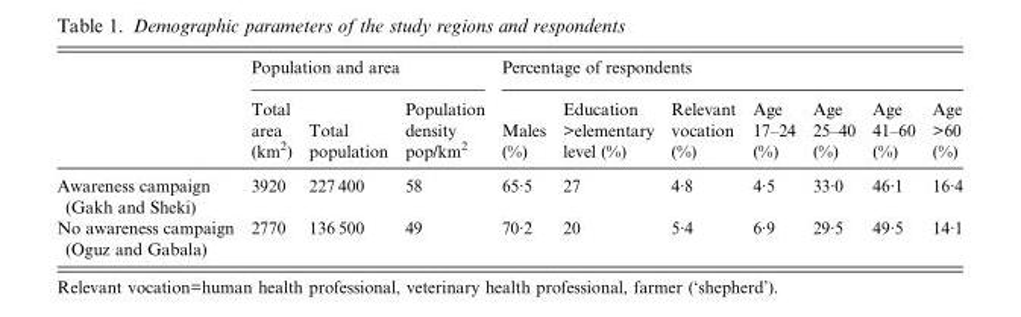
<table><thead><tr><td rowspan="2"></td><td colspan="3">Population and area</td><td colspan="7">Percentage of respondents</td></tr><tr><td>Total area (km<sup>2</sup>)</td><td>Total population</td><td>Population density pop/km<sup>2</sup></td><td>Males (%)</td><td>Education &gt;elementary level (%)</td><td>Relevant vocation (%)</td><td>Age 17–24 (%)</td><td>Age 25–40 (%)</td><td>Age 41–60 (%)</td><td>Age &gt;60 (%)</td></tr></thead><tbody><tr><td>Awareness campaign (Gakh and Sheki)</td><td>3920</td><td>227 400</td><td>58</td><td>65·5</td><td>27</td><td>4·8</td><td>4·5</td><td>33·0</td><td>46·1</td><td>16·4</td></tr><tr><td>No awareness campaign (Oguz and Gabala)</td><td>2770</td><td>136 500</td><td>49</td><td>70·2</td><td>20</td><td>5·4</td><td>6·9</td><td>29·5</td><td>49·5</td><td>14·1</td></tr></tbody></table>